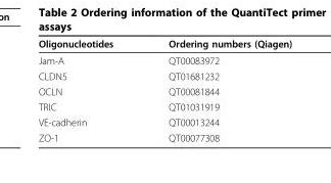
<table><thead><tr><td>Oligonucleotides</td><td>Ordering numbers (Qiagen)</td></tr></thead><tbody><tr><td>Jam-A</td><td>QT00083972</td></tr><tr><td>CLDN5</td><td>QT01681232</td></tr><tr><td>OCLN</td><td>QT00081844</td></tr><tr><td>TRIC</td><td>QT01031919</td></tr><tr><td>VE-cadherin</td><td>QT00013244</td></tr><tr><td>ZO-1</td><td>QT00077308</td></tr></tbody></table>